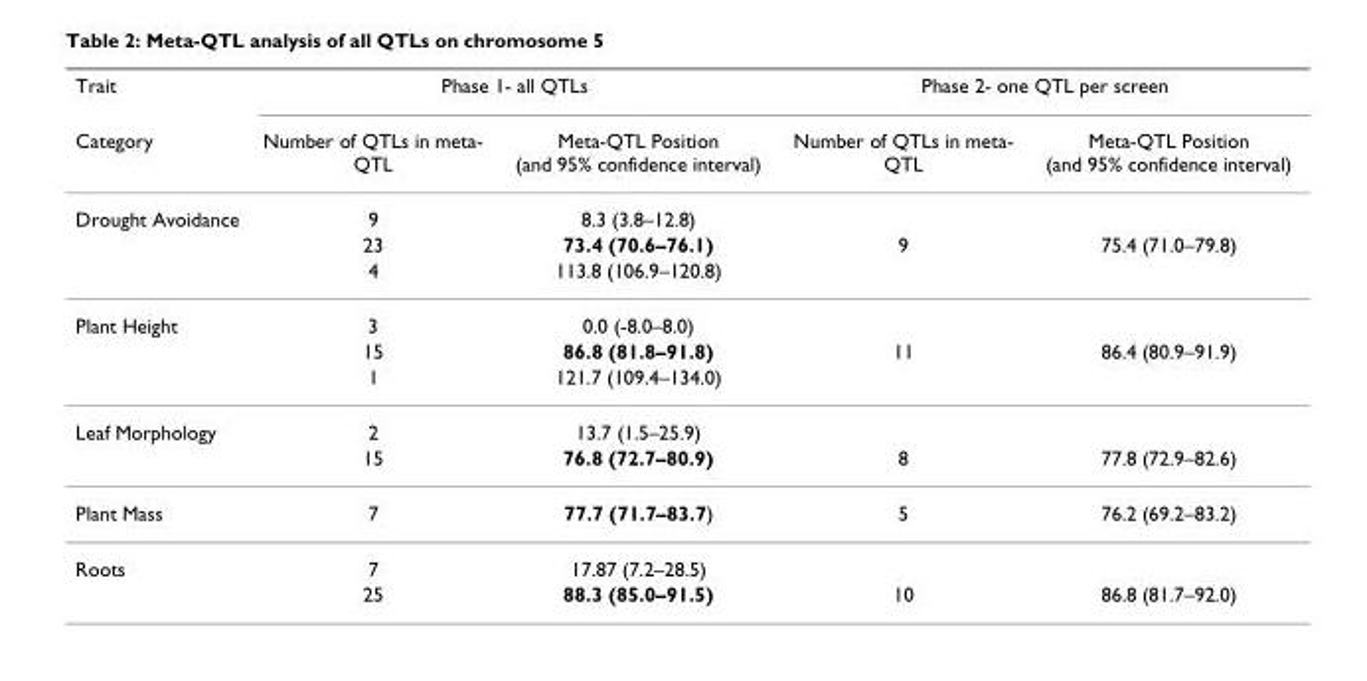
<table><thead><tr><td rowspan="2">Trait Category</td><td colspan="2">Phase 1- all QTLs</td><td colspan="2">Phase 2- one QTL per screen</td></tr><tr><td>Number of QTLs in meta- QTL</td><td>Meta-QTL Position (and 95% confidence interval)</td><td>Number of QTLs in meta- QTL</td><td>Meta-QTL Position (and 95% confidence interval)</td></tr></thead><tbody><tr><td rowspan="3">Drought Avoidance</td><td>9</td><td>8.3 (3.8–12.8)</td><td></td><td></td></tr><tr><td>23</td><td>73.4 (70.6–76.1)</td><td>9</td><td>75.4 (71.0–79.8)</td></tr><tr><td>4</td><td>113.8 (106.9–120.8)</td><td></td><td></td></tr><tr><td rowspan="3">Plant Height</td><td>3</td><td>0.0 (-8.0–8.0)</td><td></td><td></td></tr><tr><td>15</td><td>86.8 (81.8–91.8)</td><td>11</td><td>86.4 (80.9–91.9)</td></tr><tr><td>1</td><td>121.7 (109.4–134.0)</td><td></td><td></td></tr><tr><td rowspan="2">Leaf Morphology</td><td>2</td><td>13.7 (1.5–25.9)</td><td></td><td></td></tr><tr><td>15</td><td>76.8 (72.7–80.9)</td><td>8</td><td>77.8 (72.9–82.6)</td></tr><tr><td>Plant Mass</td><td>7</td><td>77.7 (71.7–83.7)</td><td>5</td><td>76.2 (69.2–83.2)</td></tr><tr><td rowspan="2">Roots</td><td>7</td><td>17.87 (7.2–28.5)</td><td></td><td></td></tr><tr><td>25</td><td>88.3 (85.0–91.5)</td><td>10</td><td>86.8 (81.7–92.0)</td></tr></tbody></table>